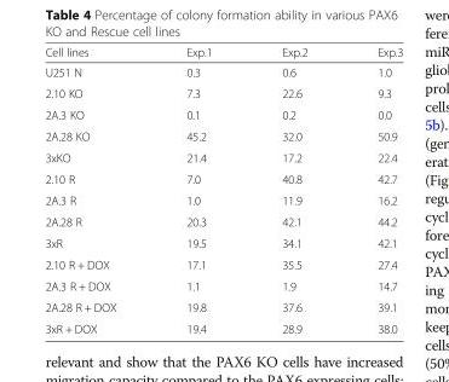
<table><thead><tr><td>Cell lines</td><td>Exp.1</td><td>Exp.2</td><td>Exp.3</td></tr></thead><tbody><tr><td>U251 N</td><td>0.3</td><td>0.6</td><td>1.0</td></tr><tr><td>2.10 KO</td><td>7.3</td><td>22.6</td><td>9.3</td></tr><tr><td>2A.3 KO</td><td>0.1</td><td>0.2</td><td>0.0</td></tr><tr><td>2A.28 KO</td><td>45.2</td><td>32.0</td><td>50.9</td></tr><tr><td>3xKO</td><td>21.4</td><td>17.2</td><td>22.4</td></tr><tr><td>2.10 R</td><td>7.0</td><td>40.8</td><td>42.7</td></tr><tr><td>2A.3 R</td><td>1.0</td><td>11.9</td><td>16.2</td></tr><tr><td>2A.28 R</td><td>20.3</td><td>42.1</td><td>44.2</td></tr><tr><td>3xR</td><td>19.5</td><td>34.1</td><td>42.1</td></tr><tr><td>2.10 R + DOX</td><td>17.1</td><td>35.5</td><td>27.4</td></tr><tr><td>2A.3 R + DOX</td><td>1.1</td><td>1.9</td><td>14.7</td></tr><tr><td>2A.28 R + DOX</td><td>19.8</td><td>37.6</td><td>39.1</td></tr><tr><td>3xR + DOX</td><td>19.4</td><td>28.9</td><td>38.0</td></tr></tbody></table>